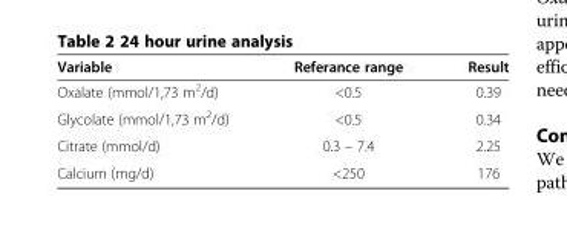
<table><thead><tr><td>Variable</td><td>Referance range</td><td>Result</td></tr></thead><tbody><tr><td>Oxalate (mmol/1,73 m<sup>2</sup>/d)</td><td>&lt;0.5</td><td>0.39</td></tr><tr><td>Glycolate (mmol/1,73 m<sup>2</sup>/d)</td><td>&lt;0.5</td><td>0.34</td></tr><tr><td>Citrate (mmol/d)</td><td>0.3 – 7.4</td><td>2.25</td></tr><tr><td>Calcium (mg/d)</td><td>&lt;250</td><td>176</td></tr></tbody></table>